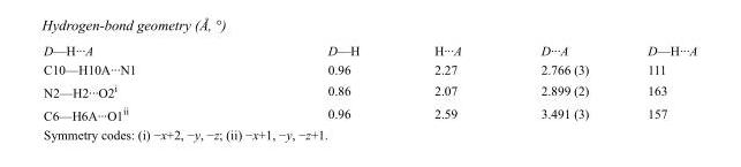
<table><tbody><tr><td>D—H···A</td><td>D—H</td><td>H···A</td><td>D···A</td><td>D—H···A</td></tr><tr><td>C10—H10A···N1</td><td>0.96</td><td>2.27</td><td>2.766 (3)</td><td>111</td></tr><tr><td>N2—H2···O2<sup>i</sup></td><td>0.86</td><td>2.07</td><td>2.899 (2)</td><td>163</td></tr><tr><td>C6—H6A···O1<sup>ii</sup></td><td>0.96</td><td>2.59</td><td>3.491 (3)</td><td>157</td></tr></tbody></table>